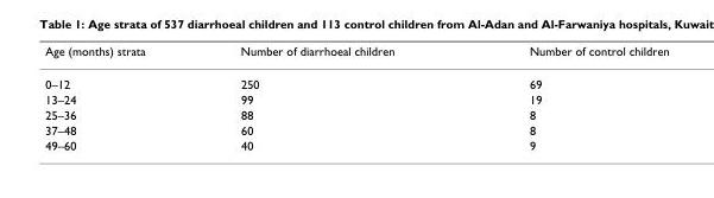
<table><thead><tr><td>Age (months) strata</td><td>Number of diarrhoeal children</td><td>Number of control children</td></tr></thead><tbody><tr><td>0–12</td><td>250</td><td>69</td></tr><tr><td>13–24</td><td>99</td><td>19</td></tr><tr><td>25–36</td><td>88</td><td>8</td></tr><tr><td>37–48</td><td>60</td><td>8</td></tr><tr><td>49–60</td><td>40</td><td>9</td></tr></tbody></table>